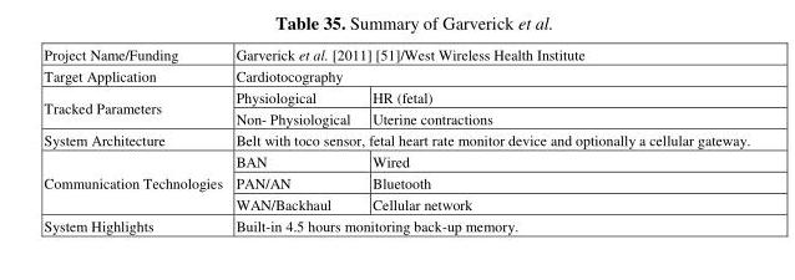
<table><tbody><tr><td>Project Name/Funding</td><td colspan="2">Garverick et al. [2011] [51]/West Wireless Health Institute</td></tr><tr><td>Target Application</td><td colspan="2">Cardiotocography</td></tr><tr><td rowspan="2">Tracked Parameters</td><td>Physiological</td><td>HR (fetal)</td></tr><tr><td>Non- Physiological</td><td>Uterine contractions</td></tr><tr><td>System Architecture</td><td colspan="2">Belt with toco sensor, fetal heart rate monitor device and optionally a cellular gateway.</td></tr><tr><td rowspan="3">Communication Technologies</td><td>BAN</td><td>Wired</td></tr><tr><td>PAN/AN</td><td>Bluetooth</td></tr><tr><td>WAN/Backhaul</td><td>Cellular network</td></tr><tr><td>System Highlights</td><td colspan="2">Built-in 4.5 hours monitoring back-up memory.</td></tr></tbody></table>